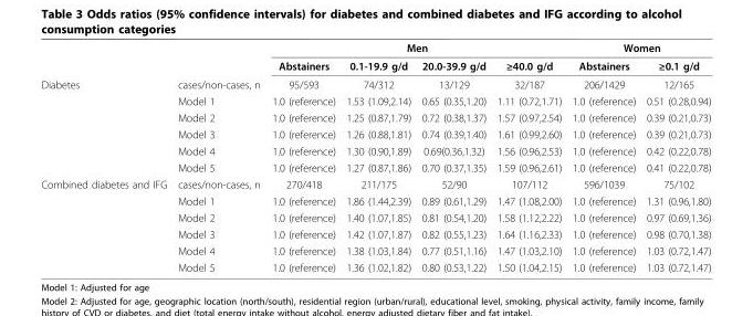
<table><thead><tr><td rowspan="2"></td><td rowspan="2"></td><td colspan="4">Men</td><td colspan="2">Women</td></tr><tr><td>Abstainers</td><td>0.1-19.9 g/d</td><td>20.0-39.9 g/d</td><td>≥40.0 g/d</td><td>Abstainers</td><td>≥0.1 g/d</td></tr></thead><tbody><tr><td rowspan="6">Diabetes</td><td>cases/non-cases, n</td><td>95/593</td><td>74/312</td><td>13/129</td><td>32/187</td><td>206/1429</td><td>12/165</td></tr><tr><td>Model 1</td><td>1.0 (reference)</td><td>1.53 (1.09,2.14)</td><td>0.65 (0.35,1.20)</td><td>1.11 (0.72,1.71)</td><td>1.0 (reference)</td><td>0.51 (0.28,0.94)</td></tr><tr><td>Model 2</td><td>1.0 (reference)</td><td>1.25 (0.87,1.79)</td><td>0.72 (0.38,1.37)</td><td>1.57 (0.97,2.54)</td><td>1.0 (reference)</td><td>0.39 (0.21,0.73)</td></tr><tr><td>Model 3</td><td>1.0 (reference)</td><td>1.26 (0.88,1.81)</td><td>0.74 (0.39,1.40)</td><td>1.61 (0.99,2.60)</td><td>1.0 (reference)</td><td>0.39 (0.21,0.73)</td></tr><tr><td>Model 4</td><td>1.0 (reference)</td><td>1.30 (0.90,1.89)</td><td>0.69(0.36,1.32)</td><td>1.56 (0.96,2.53)</td><td>1.0 (reference)</td><td>0.42 (0.22,0.78)</td></tr><tr><td>Model 5</td><td>1.0 (reference)</td><td>1.27 (0.87,1.86)</td><td>0.70 (0.37,1.35)</td><td>1.59 (0.96,2.61)</td><td>1.0 (reference)</td><td>0.41 (0.22,0.78)</td></tr><tr><td rowspan="6">Combined diabetes and IFG</td><td>cases/non-cases, n</td><td>270/418</td><td>211/175</td><td>52/90</td><td>107/112</td><td>596/1039</td><td>75/102</td></tr><tr><td>Model 1</td><td>1.0 (reference)</td><td>1.86 (1.44,2.39)</td><td>0.89 (0.61,1.29)</td><td>1.47 (1.08,2.00)</td><td>1.0 (reference)</td><td>1.31 (0.96,1.80)</td></tr><tr><td>Model 2</td><td>1.0 (reference)</td><td>1.40 (1.07,1.85)</td><td>0.81 (0.54,1.20)</td><td>1.58 (1.12,2.22)</td><td>1.0 (reference)</td><td>0.97 (0.69,1.36)</td></tr><tr><td>Model 3</td><td>1.0 (reference)</td><td>1.42 (1.07,1.87)</td><td>0.82 (0.55,1.23)</td><td>1.64 (1.16,2.33)</td><td>1.0 (reference)</td><td>0.98 (0.70,1.38)</td></tr><tr><td>Model 4</td><td>1.0 (reference)</td><td>1.38 (1.03,1.84)</td><td>0.77 (0.51,1.16)</td><td>1.47 (1.03,2.10)</td><td>1.0 (reference)</td><td>1.03 (0.72,1.47)</td></tr><tr><td>Model 5</td><td>1.0 (reference)</td><td>1.36 (1.02,1.82)</td><td>0.80 (0.53,1.22)</td><td>1.50 (1.04,2.15)</td><td>1.0 (reference)</td><td>1.03 (0.72,1.47)</td></tr></tbody></table>